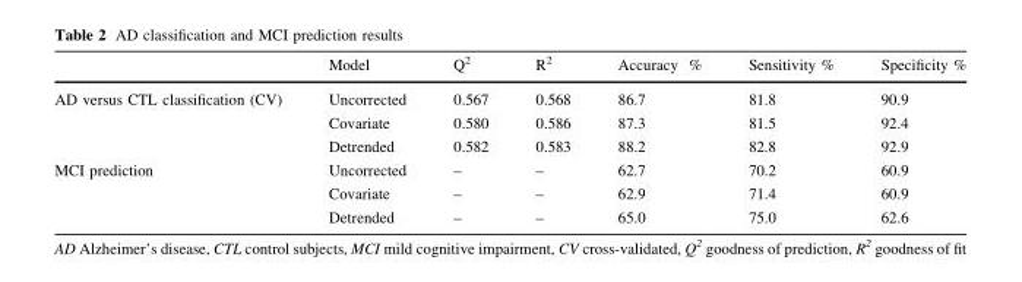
<table><thead><tr><td></td><td>Model</td><td>Q<sup>2</sup></td><td>R<sup>2</sup></td><td>Accuracy %</td><td>Sensitivity %</td><td>Specificity %</td></tr></thead><tbody><tr><td rowspan="3">AD versus CTL classification (CV)</td><td>Uncorrected</td><td>0.567</td><td>0.568</td><td>86.7</td><td>81.8</td><td>90.9</td></tr><tr><td>Covariate</td><td>0.580</td><td>0.586</td><td>87.3</td><td>81.5</td><td>92.4</td></tr><tr><td>Detrended</td><td>0.582</td><td>0.583</td><td>88.2</td><td>82.8</td><td>92.9</td></tr><tr><td rowspan="3">MCI prediction</td><td>Uncorrected</td><td>–</td><td>–</td><td>62.7</td><td>70.2</td><td>60.9</td></tr><tr><td>Covariate</td><td>–</td><td>–</td><td>62.9</td><td>71.4</td><td>60.9</td></tr><tr><td>Detrended</td><td>–</td><td>–</td><td>65.0</td><td>75.0</td><td>62.6</td></tr></tbody></table>